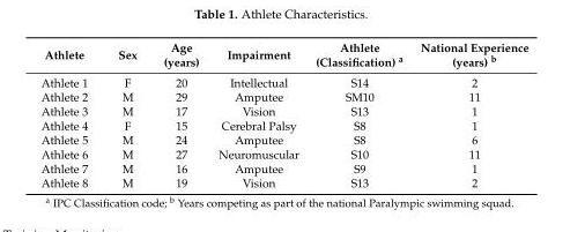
<table><thead><tr><td>Athlete</td><td>Sex</td><td>Age (years)</td><td>Impairment</td><td>Athlete (Classification) <sup>a</sup></td><td>National Experience (years) <sup>b</sup></td></tr></thead><tbody><tr><td>Athlete 1</td><td>F</td><td>20</td><td>Intellectual</td><td>S14</td><td>2</td></tr><tr><td>Athlete 2</td><td>M</td><td>29</td><td>Amputee</td><td>SM10</td><td>11</td></tr><tr><td>Athlete 3</td><td>M</td><td>17</td><td>Vision</td><td>S13</td><td>1</td></tr><tr><td>Athlete 4</td><td>F</td><td>15</td><td>Cerebral Palsy</td><td>S8</td><td>1</td></tr><tr><td>Athlete 5</td><td>M</td><td>24</td><td>Amputee</td><td>S8</td><td>6</td></tr><tr><td>Athlete 6</td><td>M</td><td>27</td><td>Neuromuscular</td><td>S10</td><td>11</td></tr><tr><td>Athlete 7</td><td>M</td><td>16</td><td>Amputee</td><td>S9</td><td>1</td></tr><tr><td>Athlete 8</td><td>M</td><td>19</td><td>Vision</td><td>S13</td><td>2</td></tr></tbody></table>